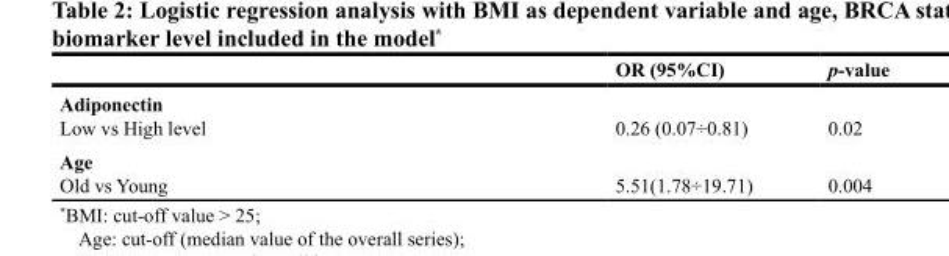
<table><thead><tr><td></td><td>OR (95%CI)</td><td>p-value</td></tr></thead><tbody><tr><td>Adiponectin Low vs High level</td><td>0.26 (0.07÷0.81)</td><td>0.02</td></tr><tr><td>Age Old vs Young</td><td>5.51(1.78÷19.71)</td><td>0.004</td></tr></tbody></table>